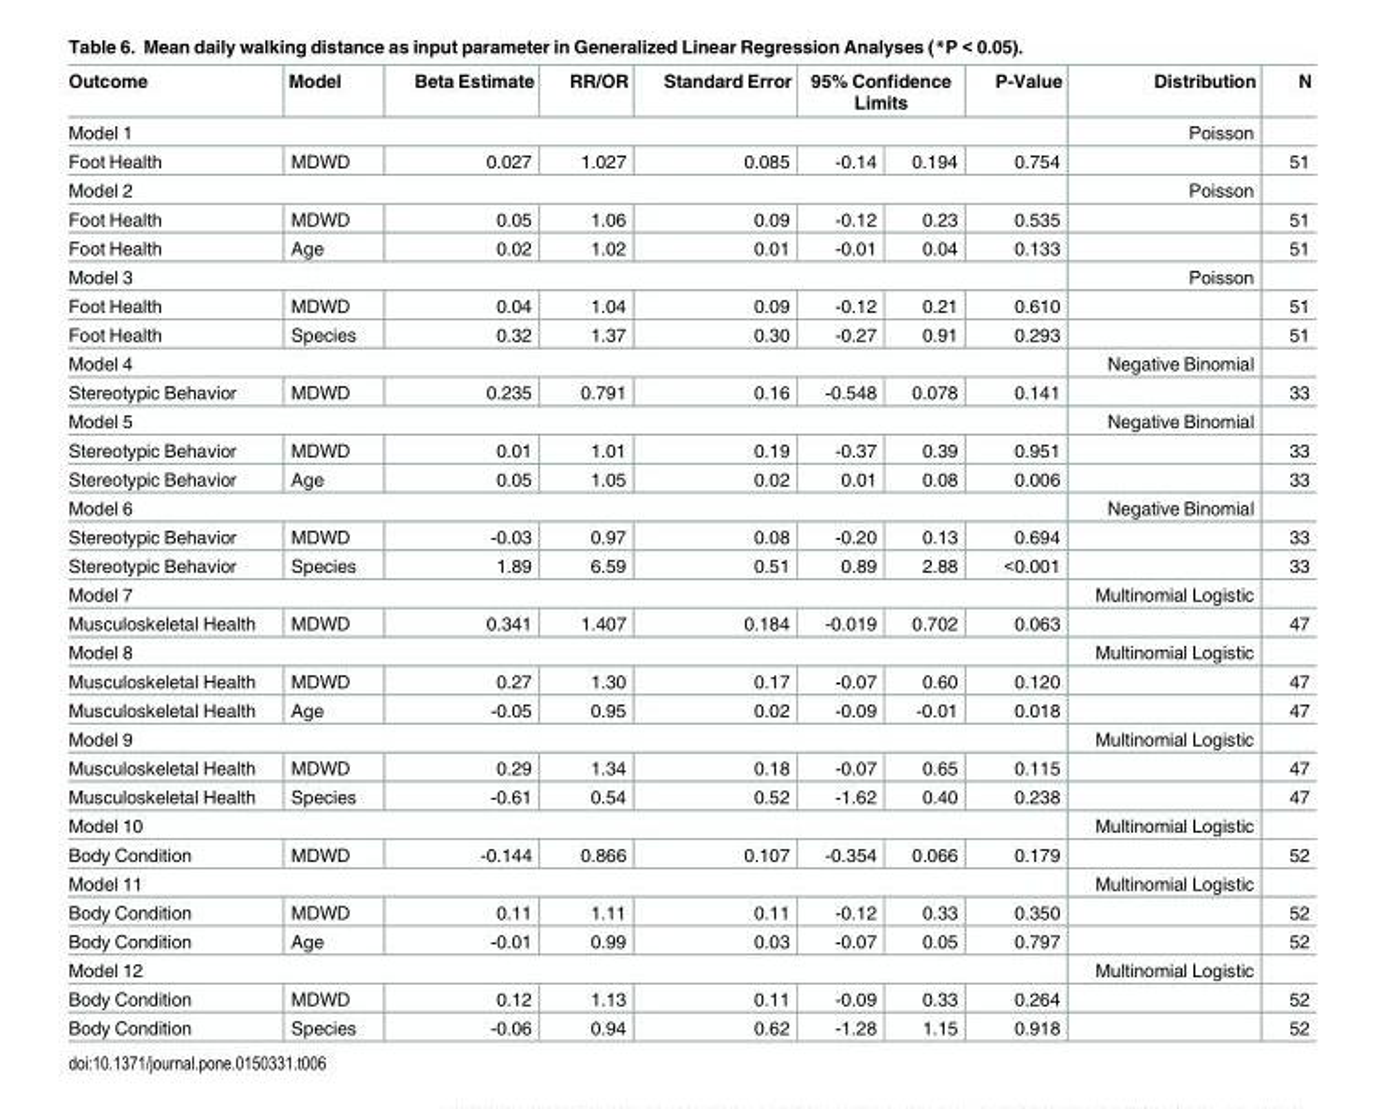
<table><thead><tr><td>Outcome</td><td>Model</td><td>Beta Estimate</td><td>RR/OR</td><td>Standard Error</td><td colspan="2">95% Confidence Limits</td><td>P-Value</td><td rowspan="3">Distribution Poisson</td><td rowspan="3">N 51</td></tr><tr><td colspan="8">Model 1</td></tr><tr><td>Foot Health</td><td>MDWD</td><td>0.027</td><td>1.027</td><td>0.085</td><td>-0.14</td><td>0.194</td><td>0.754</td></tr></thead><tbody><tr><td colspan="8">Model 2</td><td>Poisson</td><td></td></tr><tr><td>Foot Health</td><td>MDWD</td><td>0.05</td><td>1.06</td><td>0.09</td><td>-0.12</td><td>0.23</td><td>0.535</td><td></td><td>51</td></tr><tr><td>Foot Health</td><td>Age</td><td>0.02</td><td>1.02</td><td>0.01</td><td>-0.01</td><td>0.04</td><td>0.133</td><td></td><td>51</td></tr><tr><td colspan="8">Model 3</td><td>Poisson</td><td></td></tr><tr><td>Foot Health</td><td>MDWD</td><td>0.04</td><td>1.04</td><td>0.09</td><td>-0.12</td><td>0.21</td><td>0.610</td><td></td><td>51</td></tr><tr><td>Foot Health</td><td>Species</td><td>0.32</td><td>1.37</td><td>0.30</td><td>-0.27</td><td>0.91</td><td>0.293</td><td></td><td>51</td></tr><tr><td colspan="8">Model 4</td><td>Negative Binomial</td><td></td></tr><tr><td>Stereotypic Behavior</td><td>MDWD</td><td>0.235</td><td>0.791</td><td>0.16</td><td>-0.548</td><td>0.078</td><td>0.141</td><td></td><td>33</td></tr><tr><td colspan="8">Model 5</td><td>Negative Binomial</td><td></td></tr><tr><td>Stereotypic Behavior</td><td>MDWD</td><td>0.01</td><td>1.01</td><td>0.19</td><td>-0.37</td><td>0.39</td><td>0.951</td><td></td><td>33</td></tr><tr><td>Stereotypic Behavior</td><td>Age</td><td>0.05</td><td>1.05</td><td>0.02</td><td>0.01</td><td>0.08</td><td>0.006</td><td></td><td>33</td></tr><tr><td colspan="8">Model 6</td><td>Negative Binomial</td><td></td></tr><tr><td>Stereotypic Behavior</td><td>MDWD</td><td>-0.03</td><td>0.97</td><td>0.08</td><td>-0.20</td><td>0.13</td><td>0.694</td><td></td><td>33</td></tr><tr><td>Stereotypic Behavior</td><td>Species</td><td>1.89</td><td>6.59</td><td>0.51</td><td>0.89</td><td>2.88</td><td>&lt;0.001</td><td></td><td>33</td></tr><tr><td colspan="8">Model 7</td><td>Multinomial Logistic</td><td></td></tr><tr><td>Musculoskeletal Health</td><td>MDWD</td><td>0.341</td><td>1.407</td><td>0.184</td><td>-0.019</td><td>0.702</td><td>0.063</td><td></td><td>47</td></tr><tr><td colspan="8">Model 8</td><td>Multinomial Logistic</td><td></td></tr><tr><td>Musculoskeletal Health</td><td>MDWD</td><td>0.27</td><td>1.30</td><td>0.17</td><td>-0.07</td><td>0.60</td><td>0.120</td><td></td><td>47</td></tr><tr><td>Musculoskeletal Health</td><td>Age</td><td>-0.05</td><td>0.95</td><td>0.02</td><td>-0.09</td><td>-0.01</td><td>0.018</td><td></td><td>47</td></tr><tr><td colspan="8">Model 9</td><td>Multinomial Logistic</td><td></td></tr><tr><td>Musculoskeletal Health</td><td>MDWD</td><td>0.29</td><td>1.34</td><td>0.18</td><td>-0.07</td><td>0.65</td><td>0.115</td><td></td><td>47</td></tr><tr><td>Musculoskeletal Health</td><td>Species</td><td>-0.61</td><td>0.54</td><td>0.52</td><td>-1.62</td><td>0.40</td><td>0.238</td><td></td><td>47</td></tr><tr><td colspan="8">Model 10</td><td>Multinomial Logistic</td><td></td></tr><tr><td>Body Condition</td><td>MDWD</td><td>-0.144</td><td>0.866</td><td>0.107</td><td>-0.354</td><td>0.066</td><td>0.179</td><td></td><td>52</td></tr><tr><td colspan="8">Model 11</td><td>Multinomial Logistic</td><td></td></tr><tr><td>Body Condition</td><td>MDWD</td><td>0.11</td><td>1.11</td><td>0.11</td><td>-0.12</td><td>0.33</td><td>0.350</td><td></td><td>52</td></tr><tr><td>Body Condition</td><td>Age</td><td>-0.01</td><td>0.99</td><td>0.03</td><td>-0.07</td><td>0.05</td><td>0.797</td><td></td><td>52</td></tr><tr><td colspan="8">Model 12</td><td>Multinomial Logistic</td><td></td></tr><tr><td>Body Condition</td><td>MDWD</td><td>0.12</td><td>1.13</td><td>0.11</td><td>-0.09</td><td>0.33</td><td>0.264</td><td></td><td>52</td></tr><tr><td>Body Condition</td><td>Species</td><td>-0.06</td><td>0.94</td><td>0.62</td><td>-1.28</td><td>1.15</td><td>0.918</td><td></td><td>52</td></tr></tbody></table>